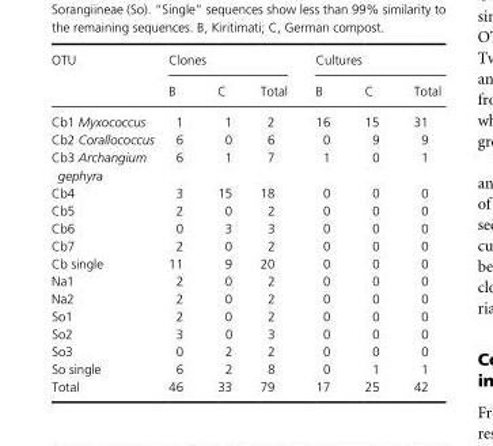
<table><thead><tr><td rowspan="2">OTU</td><td colspan="3">Clones</td><td colspan="3">Cultures</td></tr><tr><td>B</td><td>C</td><td>Total</td><td>B</td><td>C</td><td>Total</td></tr></thead><tbody><tr><td>Cb1 Myxococcus</td><td>1</td><td>1</td><td>2</td><td>16</td><td>15</td><td>31</td></tr><tr><td>Cb2 Corallococcus</td><td>6</td><td>0</td><td>6</td><td>0</td><td>9</td><td>9</td></tr><tr><td>Cb3 Archangium gephyra</td><td>6</td><td>1</td><td>7</td><td>1</td><td>0</td><td>1</td></tr><tr><td>Cb4</td><td>3</td><td>15</td><td>18</td><td>0</td><td>0</td><td>0</td></tr><tr><td>Cb5</td><td>2</td><td>0</td><td>2</td><td>0</td><td>0</td><td>0</td></tr><tr><td>Cb6</td><td>0</td><td>3</td><td>3</td><td>0</td><td>0</td><td>0</td></tr><tr><td>Cb7</td><td>2</td><td>0</td><td>2</td><td>0</td><td>0</td><td>0</td></tr><tr><td>Cb single</td><td>11</td><td>9</td><td>20</td><td>0</td><td>0</td><td>0</td></tr><tr><td>Na1</td><td>2</td><td>0</td><td>2</td><td>0</td><td>0</td><td>0</td></tr><tr><td>Na2</td><td>2</td><td>0</td><td>2</td><td>0</td><td>0</td><td>0</td></tr><tr><td>So1</td><td>2</td><td>0</td><td>2</td><td>0</td><td>0</td><td>0</td></tr><tr><td>So2</td><td>3</td><td>0</td><td>3</td><td>0</td><td>0</td><td>0</td></tr><tr><td>So3</td><td>0</td><td>2</td><td>2</td><td>0</td><td>0</td><td>0</td></tr><tr><td>So single</td><td>6</td><td>2</td><td>8</td><td>0</td><td>1</td><td>1</td></tr><tr><td>Total</td><td>46</td><td>33</td><td>79</td><td>17</td><td>25</td><td>42</td></tr></tbody></table>